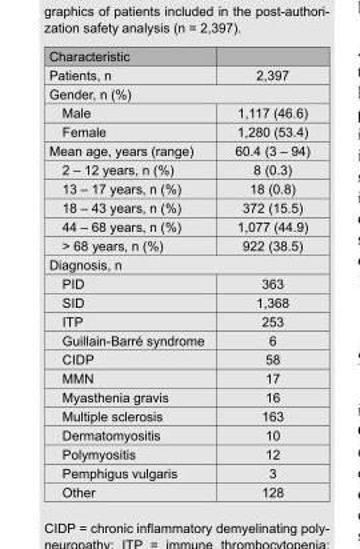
<table><thead><tr><td>Characteristic</td><td></td></tr></thead><tbody><tr><td>Patients, n</td><td>2,397</td></tr><tr><td colspan="2">Gender, n (%)</td></tr><tr><td>Male</td><td>1,117 (46.6)</td></tr><tr><td>Female</td><td>1,280 (53.4)</td></tr><tr><td>Mean age, years (range)</td><td>60.4 (3 – 94)</td></tr><tr><td>2 – 12 years, n (%)</td><td>8 (0.3)</td></tr><tr><td>13 – 17 years, n (%)</td><td>18 (0.8)</td></tr><tr><td>18 – 43 years, n (%)</td><td>372 (15.5)</td></tr><tr><td>44 – 68 years, n (%)</td><td>1,077 (44.9)</td></tr><tr><td>&gt; 68 years, n (%)</td><td>922 (38.5)</td></tr><tr><td colspan="2">Diagnosis, n</td></tr><tr><td>PID</td><td>363</td></tr><tr><td>SID</td><td>1,368</td></tr><tr><td>ITP</td><td>253</td></tr><tr><td>Guillain-Barré syndrome</td><td>6</td></tr><tr><td>CIDP</td><td>58</td></tr><tr><td>MMN</td><td>17</td></tr><tr><td>Myasthenia gravis</td><td>16</td></tr><tr><td>Multiple sclerosis</td><td>163</td></tr><tr><td>Dermatomyositis</td><td>10</td></tr><tr><td>Polymyositis</td><td>12</td></tr><tr><td>Pemphigus vulgaris</td><td>3</td></tr><tr><td>Other</td><td>128</td></tr></tbody></table>